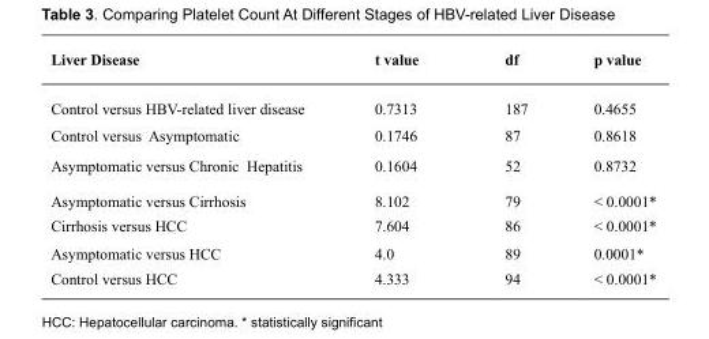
<table><thead><tr><td>Liver Disease</td><td>t value</td><td>df</td><td>p value</td></tr></thead><tbody><tr><td>Control versus HBV-related liver disease</td><td>0.7313</td><td>187</td><td>0.4655</td></tr><tr><td>Control versus Asymptomatic</td><td>0.1746</td><td>87</td><td>0.8618</td></tr><tr><td>Asymptomatic versus Chronic Hepatitis</td><td>0.1604</td><td>52</td><td>0.8732</td></tr><tr><td>Asymptomatic versus Cirrhosis</td><td>8.102</td><td>79</td><td>&lt; 0.0001*</td></tr><tr><td>Cirrhosis versus HCC</td><td>7.604</td><td>86</td><td>&lt; 0.0001*</td></tr><tr><td>Asymptomatic versus HCC</td><td>4.0</td><td>89</td><td>0.0001*</td></tr><tr><td>Control versus HCC</td><td>4.333</td><td>94</td><td>&lt; 0.0001*</td></tr></tbody></table>